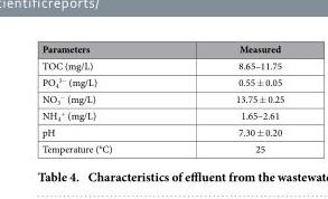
<table><thead><tr><td>Parameters</td><td>Measured</td></tr></thead><tbody><tr><td>TOC (mg/L)</td><td>8.65–11.75</td></tr><tr><td>PO<sub>4</sub> <sup>3−</sup> (mg/L)</td><td>0.55 ± 0.05</td></tr><tr><td>NO<sub>3</sub> <sup>−</sup> (mg/L)</td><td>13.75 ± 0.25</td></tr><tr><td>NH<sub>4</sub> <sup>+</sup> (mg/L)</td><td>1.65–2.61</td></tr><tr><td>pH</td><td>7.30 ± 0.20</td></tr><tr><td>Temperature (°C)</td><td>25</td></tr></tbody></table>